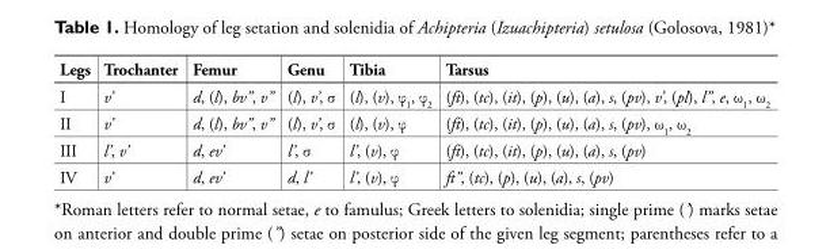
<table><thead><tr><td>Legs</td><td>Trochanter</td><td>Femur</td><td>Genu</td><td>Tibia</td><td>Tarsus</td></tr></thead><tbody><tr><td>I</td><td>v’</td><td>d, (l), bv”, v”</td><td>(l), v’, σ</td><td>(l), (v), φ<sub>1</sub>, φ<sub>2</sub></td><td>(ft), (tc), (it), (p), (u), (a), s, (pv), v’, (pl), l”, e, ω<sub>1</sub>, ω<sub>2</sub></td></tr><tr><td>II</td><td>v’</td><td>d, (l), bv”, v”</td><td>(l), v’, σ</td><td>(l), (v), φ</td><td>(ft), (tc), (it), (p), (u), (a), s, (pv), ω<sub>1</sub>, ω<sub>2</sub></td></tr><tr><td>III</td><td>l’, v’</td><td>d, ev’</td><td>l’, σ</td><td>l’, (v), φ</td><td>(ft), (tc), (it), (p), (u), (a), s, (pv)</td></tr><tr><td>IV</td><td>v’</td><td>d, ev’</td><td>d, l’</td><td>l’, (v), φ</td><td>ft”, (tc), (p), (u), (a), s, (pv)</td></tr></tbody></table>